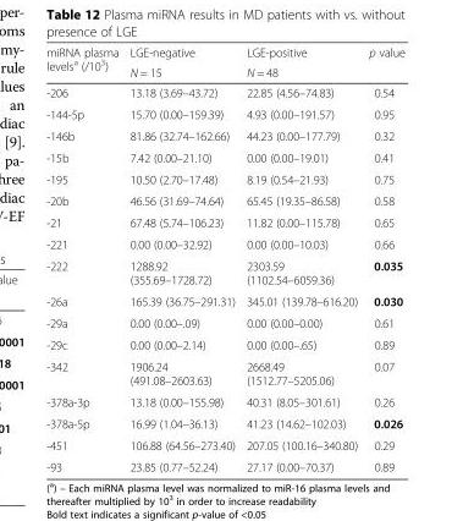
<table><thead><tr><td rowspan="2">miRNA plasma levels<sup>a</sup> (/10<sup>3</sup>)</td><td rowspan="2">LGE-negative N = 15</td><td rowspan="2">LGE-positive N = 48</td><td rowspan="2">p value</td></tr><tr></tr></thead><tbody><tr><td>-206</td><td>13.18 (3.69–43.72)</td><td>22.85 (4.56–74.83)</td><td>0.54</td></tr><tr><td>-144-5p</td><td>15.70 (0.00–159.39)</td><td>4.93 (0.00–191.57)</td><td>0.95</td></tr><tr><td>-146b</td><td>81.86 (32.74–162.66)</td><td>44.23 (0.00–177.79)</td><td>0.32</td></tr><tr><td>-15b</td><td>7.42 (0.00–21.10)</td><td>0.00 (0.00–19.01)</td><td>0.41</td></tr><tr><td>-195</td><td>10.50 (2.70–17.48)</td><td>8.19 (0.54–21.93)</td><td>0.75</td></tr><tr><td>-20b</td><td>46.56 (31.69–74.64)</td><td>65.45 (19.35–86.58)</td><td>0.58</td></tr><tr><td>-21</td><td>67.48 (5.74–106.23)</td><td>11.82 (0.00–115.78)</td><td>0.65</td></tr><tr><td>-221</td><td>0.00 (0.00–32.92)</td><td>0.00 (0.00–10.03)</td><td>0.66</td></tr><tr><td>-222</td><td>1288.92 (355.69–1728.72)</td><td>2303.59 (1102.54–6059.36)</td><td>0.035</td></tr><tr><td>-26a</td><td>165.39 (36.75–291.31)</td><td>345.01 (139.78–616.20)</td><td>0.030</td></tr><tr><td>-29a</td><td>0.00 (0.00–.09)</td><td>0.00 (0.00–0.00)</td><td>0.61</td></tr><tr><td>-29c</td><td>0.00 (0.00–2.14)</td><td>0.00 (0.00–.65)</td><td>0.89</td></tr><tr><td>-342</td><td>1906.24 (491.08–2603.63)</td><td>2668.49 (1512.77–5205.06)</td><td>0.07</td></tr><tr><td>-378a-3p</td><td>13.18 (0.00–155.98)</td><td>40.31 (8.05–301.61)</td><td>0.26</td></tr><tr><td>-378a-5p</td><td>16.99 (1.04–36.13)</td><td>41.23 (14.62–102.03)</td><td>0.026</td></tr><tr><td>-451</td><td>106.88 (64.56–273.40)</td><td>207.05 (100.16–340.80)</td><td>0.29</td></tr><tr><td>-93</td><td>23.85 (0.77–52.24)</td><td>27.17 (0.00–70.37)</td><td>0.89</td></tr></tbody></table>